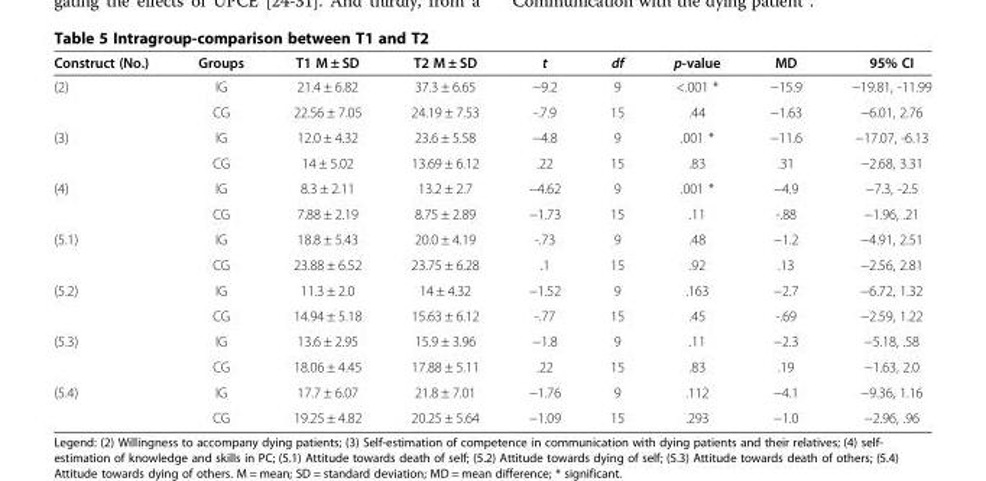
<table><thead><tr><td>Construct (No.)</td><td>Groups</td><td>T1 M ± SD</td><td>T2 M ± SD</td><td>t</td><td>df</td><td>p-value</td><td>MD</td><td>95% CI</td></tr></thead><tbody><tr><td rowspan="2">(2)</td><td>IG</td><td>21.4 ± 6.82</td><td>37.3 ± 6.65</td><td>−9.2</td><td>9</td><td>&lt;.001 *</td><td>−15.9</td><td>−19.81, -11.99</td></tr><tr><td>CG</td><td>22.56 ± 7.05</td><td>24.19 ± 7.53</td><td>-.7.9</td><td>15</td><td>.44</td><td>−1.63</td><td>−6.01, 2.76</td></tr><tr><td rowspan="2">(3)</td><td>IG</td><td>12.0 ± 4.32</td><td>23.6 ± 5.58</td><td>−4.8</td><td>9</td><td>.001 *</td><td>−11.6</td><td>−17.07, -6.13</td></tr><tr><td>CG</td><td>14 ± 5.02</td><td>13.69 ± 6.12</td><td>.22</td><td>15</td><td>.83</td><td>.31</td><td>−2.68, 3.31</td></tr><tr><td rowspan="2">(4)</td><td>IG</td><td>8.3 ± 2.11</td><td>13.2 ± 2.7</td><td>−4.62</td><td>9</td><td>.001 *</td><td>−4.9</td><td>−7.3, -2.5</td></tr><tr><td>CG</td><td>7.88 ± 2.19</td><td>8.75 ± 2.89</td><td>−1.73</td><td>15</td><td>.11</td><td>-.88</td><td>−1.96, .21</td></tr><tr><td rowspan="2">(5.1)</td><td>IG</td><td>18.8 ± 5.43</td><td>20.0 ± 4.19</td><td>-.73</td><td>9</td><td>.48</td><td>−1.2</td><td>−4.91, 2.51</td></tr><tr><td>CG</td><td>23.88 ± 6.52</td><td>23.75 ± 6.28</td><td>.1</td><td>15</td><td>.92</td><td>.13</td><td>−2.56, 2.81</td></tr><tr><td rowspan="2">(5.2)</td><td>IG</td><td>11.3 ± 2.0</td><td>14 ± 4.32</td><td>−1.52</td><td>9</td><td>.163</td><td>−2.7</td><td>−6.72, 1.32</td></tr><tr><td>CG</td><td>14.94 ± 5.18</td><td>15.63 ± 6.12</td><td>-.77</td><td>15</td><td>.45</td><td>-.69</td><td>−2.59, 1.22</td></tr><tr><td rowspan="2">(5.3)</td><td>IG</td><td>13.6 ± 2.95</td><td>15.9 ± 3.96</td><td>−1.8</td><td>9</td><td>.11</td><td>−2.3</td><td>−5.18, .58</td></tr><tr><td>CG</td><td>18.06 ± 4.45</td><td>17.88 ± 5.11</td><td>.22</td><td>15</td><td>.83</td><td>.19</td><td>−1.63, 2.0</td></tr><tr><td rowspan="2">(5.4)</td><td>IG</td><td>17.7 ± 6.07</td><td>21.8 ± 7.01</td><td>−1.76</td><td>9</td><td>.112</td><td>−4.1</td><td>−9.36, 1.16</td></tr><tr><td>CG</td><td>19.25 ± 4.82</td><td>20.25 ± 5.64</td><td>−1.09</td><td>15</td><td>.293</td><td>−1.0</td><td>−2.96, .96</td></tr></tbody></table>